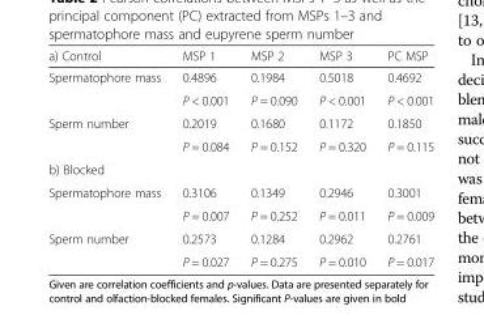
<table><thead><tr><td>a) Control</td><td>MSP 1</td><td>MSP 2</td><td>MSP 3</td><td>PC MSP</td></tr></thead><tbody><tr><td rowspan="2">Spermatophore mass</td><td>0.4896</td><td>0.1984</td><td>0.5018</td><td>0.4692</td></tr><tr><td>P &lt; 0.001</td><td>P = 0.090</td><td>P &lt; 0.001</td><td>P &lt; 0.001</td></tr><tr><td rowspan="2">Sperm number</td><td>0.2019</td><td>0.1680</td><td>0.1172</td><td>0.1850</td></tr><tr><td>P = 0.084</td><td>P = 0.152</td><td>P = 0.320</td><td>P = 0.115</td></tr><tr><td colspan="5">b) Blocked</td></tr><tr><td rowspan="2">Spermatophore mass</td><td>0.3106</td><td>0.1349</td><td>0.2946</td><td>0.3001</td></tr><tr><td>P = 0.007</td><td>P = 0.252</td><td>P = 0.011</td><td>P = 0.009</td></tr><tr><td rowspan="2">Sperm number</td><td>0.2573</td><td>0.1284</td><td>0.2962</td><td>0.2761</td></tr><tr><td>P = 0.027</td><td>P = 0.275</td><td>P = 0.010</td><td>P = 0.017</td></tr></tbody></table>